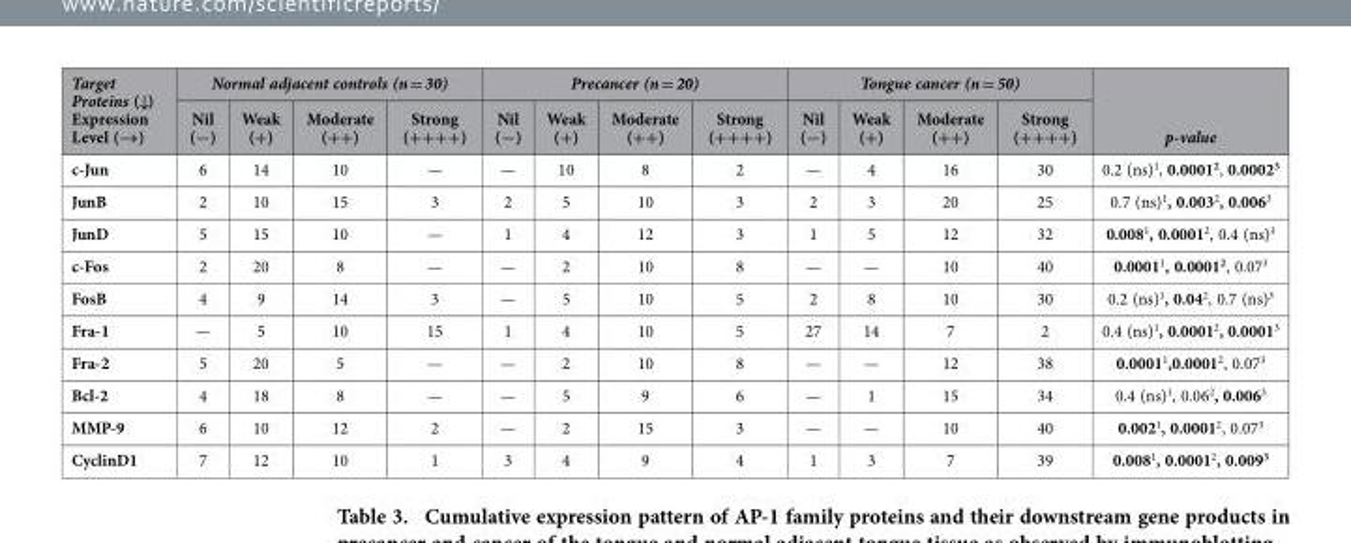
<table><thead><tr><td rowspan="2">Target Proteins (↓) Expression Level (→)</td><td colspan="4">Normal adjacent controls (n = 30)</td><td colspan="4">Precancer (n = 20)</td><td colspan="4">Tongue cancer (n = 50)</td><td rowspan="2">p-value</td></tr><tr><td>Nil (−)</td><td>Weak (+)</td><td>Moderate (++)</td><td>Strong (++++)</td><td>Nil (−)</td><td>Weak (+)</td><td>Moderate (++)</td><td>Strong (++++)</td><td>Nil (−)</td><td>Weak (+)</td><td>Moderate (++)</td><td>Strong (++++)</td></tr></thead><tbody><tr><td>c-Jun</td><td>6</td><td>14</td><td>10</td><td>—</td><td>—</td><td>10</td><td>8</td><td>2</td><td>—</td><td>4</td><td>16</td><td>30</td><td>0.2 (ns)<sup>1</sup>, 0.0001<sup>2</sup>, 0.0002<sup>3</sup></td></tr><tr><td>JunB</td><td>2</td><td>10</td><td>15</td><td>3</td><td>2</td><td>5</td><td>10</td><td>3</td><td>2</td><td>3</td><td>20</td><td>25</td><td>0.7 (ns)<sup>1</sup>, 0.003<sup>2</sup>, 0.006<sup>3</sup></td></tr><tr><td>JunD</td><td>5</td><td>15</td><td>10</td><td>—</td><td>1</td><td>4</td><td>12</td><td>3</td><td>1</td><td>5</td><td>12</td><td>32</td><td>0.008<sup>1</sup>, 0.0001<sup>2</sup>, 0.4 (ns)<sup>3</sup></td></tr><tr><td>c-Fos</td><td>2</td><td>20</td><td>8</td><td>—</td><td>—</td><td>2</td><td>10</td><td>8</td><td>—</td><td>—</td><td>10</td><td>40</td><td>0.0001<sup>1</sup>, 0.0001<sup>2</sup>, 0.07<sup>3</sup></td></tr><tr><td>FosB</td><td>4</td><td>9</td><td>14</td><td>3</td><td>—</td><td>5</td><td>10</td><td>5</td><td>2</td><td>8</td><td>10</td><td>30</td><td>0.2 (ns)<sup>1</sup>, 0.04<sup>2</sup>, 0.7 (ns)<sup>3</sup></td></tr><tr><td>Fra-1</td><td>—</td><td>5</td><td>10</td><td>15</td><td>1</td><td>4</td><td>10</td><td>5</td><td>27</td><td>14</td><td>7</td><td>2</td><td>0.4 (ns)<sup>1</sup>, 0.0001<sup>2</sup>, 0.0001<sup>3</sup></td></tr><tr><td>Fra-2</td><td>5</td><td>20</td><td>5</td><td>—</td><td>—</td><td>2</td><td>10</td><td>8</td><td>—</td><td>—</td><td>12</td><td>38</td><td>0.0001<sup>1</sup>,0.0001<sup>2</sup>, 0.07<sup>3</sup></td></tr><tr><td>Bcl-2</td><td>4</td><td>18</td><td>8</td><td>—</td><td>—</td><td>5</td><td>9</td><td>6</td><td>—</td><td>1</td><td>15</td><td>34</td><td>0.4 (ns)<sup>1</sup>, 0.06<sup>2</sup>, 0.006<sup>3</sup></td></tr><tr><td>MMP-9</td><td>6</td><td>10</td><td>12</td><td>2</td><td>—</td><td>2</td><td>15</td><td>3</td><td>—</td><td>—</td><td>10</td><td>40</td><td>0.002<sup>1</sup>, 0.0001<sup>2</sup>, 0.07<sup>3</sup></td></tr><tr><td>CyclinD1</td><td>7</td><td>12</td><td>10</td><td>1</td><td>3</td><td>4</td><td>9</td><td>4</td><td>1</td><td>3</td><td>7</td><td>39</td><td>0.008<sup>1</sup>, 0.0001<sup>2</sup>, 0.009<sup>3</sup></td></tr></tbody></table>